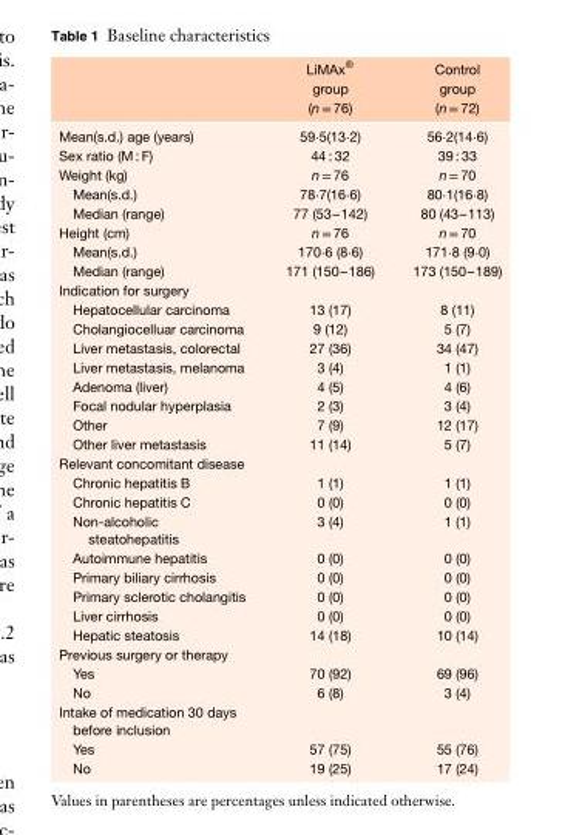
<table><thead><tr><td></td><td>LiMAx<sup>®</sup> group (n = 76)</td><td>Control group (n = 72)</td></tr></thead><tbody><tr><td>Mean(s.d.) age (years)</td><td>59⋅5(13⋅2)</td><td>56⋅2(14⋅6)</td></tr><tr><td>Sex ratio (M : F)</td><td>44 : 32</td><td>39 : 33</td></tr><tr><td>Weight (kg)</td><td>n = 76</td><td>n = 70</td></tr><tr><td>Mean(s.d.)</td><td>78⋅7(16⋅6)</td><td>80⋅1(16⋅8)</td></tr><tr><td>Median (range)</td><td>77 (53–142)</td><td>80 (43–113)</td></tr><tr><td>Height (cm)</td><td>n = 76</td><td>n = 70</td></tr><tr><td>Mean(s.d.)</td><td>170⋅6 (8⋅6)</td><td>171⋅8 (9⋅0)</td></tr><tr><td>Median (range)</td><td>171 (150–186)</td><td>173 (150–189)</td></tr><tr><td colspan="3">Indication for surgery</td></tr><tr><td>Hepatocellular carcinoma</td><td>13 (17)</td><td>8 (11)</td></tr><tr><td>Cholangiocelluar carcinoma</td><td>9 (12)</td><td>5 (7)</td></tr><tr><td>Liver metastasis, colorectal</td><td>27 (36)</td><td>34 (47)</td></tr><tr><td>Liver metastasis, melanoma</td><td>3 (4)</td><td>1 (1)</td></tr><tr><td>Adenoma (liver)</td><td>4 (5)</td><td>4 (6)</td></tr><tr><td>Focal nodular hyperplasia</td><td>2 (3)</td><td>3 (4)</td></tr><tr><td>Other</td><td>7 (9)</td><td>12 (17)</td></tr><tr><td>Other liver metastasis</td><td>11 (14)</td><td>5 (7)</td></tr><tr><td colspan="3">Relevant concomitant disease</td></tr><tr><td>Chronic hepatitis B</td><td>1 (1)</td><td>1 (1)</td></tr><tr><td>Chronic hepatitis C</td><td>0 (0)</td><td>0 (0)</td></tr><tr><td>Non-alcoholic steatohepatitis</td><td>3 (4)</td><td>1 (1)</td></tr><tr><td>Autoimmune hepatitis</td><td>0 (0)</td><td>0 (0)</td></tr><tr><td>Primary biliary cirrhosis</td><td>0 (0)</td><td>0 (0)</td></tr><tr><td>Primary sclerotic cholangitis</td><td>0 (0)</td><td>0 (0)</td></tr><tr><td>Liver cirrhosis</td><td>0 (0)</td><td>0 (0)</td></tr><tr><td>Hepatic steatosis</td><td>14 (18)</td><td>10 (14)</td></tr><tr><td colspan="3">Previous surgery or therapy</td></tr><tr><td>Yes</td><td>70 (92)</td><td>69 (96)</td></tr><tr><td>No</td><td>6 (8)</td><td>3 (4)</td></tr><tr><td colspan="3">Intake of medication 30 days before inclusion</td></tr><tr><td>Yes</td><td>57 (75)</td><td>55 (76)</td></tr><tr><td>No</td><td>19 (25)</td><td>17 (24)</td></tr></tbody></table>